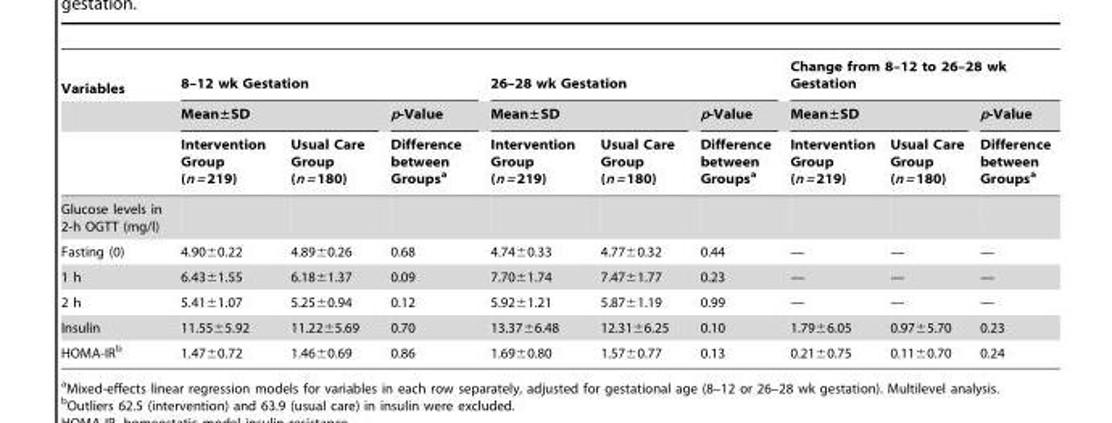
<table><thead><tr><td rowspan="3">Variables</td><td colspan="3">8–12 wk Gestation</td><td colspan="3">26–28 wk Gestation</td><td colspan="3">Change from 8–12 to 26–28 wk Gestation</td></tr><tr><td colspan="2">Mean±SD</td><td rowspan="2">p-Value Difference between Groups<sup>a</sup></td><td colspan="2">Mean±SD</td><td rowspan="2">p-Value Difference between Groups<sup>a</sup></td><td colspan="2">Mean±SD</td><td rowspan="2">p-Value Difference between Groups<sup>a</sup></td></tr><tr><td>Intervention Group (n = 219)</td><td>Usual Care Group (n = 180)</td><td>Intervention Group (n = 219)</td><td>Usual Care Group (n = 180)</td><td>Intervention Group (n = 219)</td><td>Usual Care Group (n = 180)</td></tr></thead><tbody><tr><td colspan="10">Glucose levels in 2-h OGTT (mg/l)</td></tr><tr><td>Fasting (0)</td><td>4.90±0.22</td><td>4.89±0.26</td><td>0.68</td><td>4.74±0.33</td><td>4.77±0.32</td><td>0.44</td><td>—</td><td>—</td><td>—</td></tr><tr><td>1 h</td><td>6.43±1.55</td><td>6.18±1.37</td><td>0.09</td><td>7.70±1.74</td><td>7.47±1.77</td><td>0.23</td><td>—</td><td>—</td><td>—</td></tr><tr><td>2 h</td><td>5.41±1.07</td><td>5.25±0.94</td><td>0.12</td><td>5.92±1.21</td><td>5.87±1.19</td><td>0.99</td><td>—</td><td>—</td><td>—</td></tr><tr><td>Insulin</td><td>11.55±5.92</td><td>11.22±5.69</td><td>0.70</td><td>13.37±6.48</td><td>12.31±6.25</td><td>0.10</td><td>1.79±6.05</td><td>0.97±5.70</td><td>0.23</td></tr><tr><td>HOMA-IR<sup>b</sup></td><td>1.47±0.72</td><td>1.46±0.69</td><td>0.86</td><td>1.69±0.80</td><td>1.57±0.77</td><td>0.13</td><td>0.21±0.75</td><td>0.11±0.70</td><td>0.24</td></tr></tbody></table>